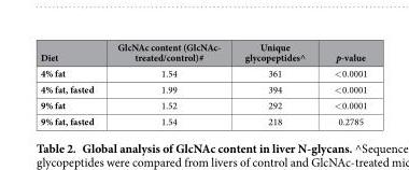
<table><thead><tr><td>Diet</td><td>GlcNAc content (GlcNAc- treated/control)#</td><td>Unique glycopeptides^</td><td>p-value</td></tr></thead><tbody><tr><td>4% fat</td><td>1.54</td><td>361</td><td>&lt; 0.0001</td></tr><tr><td>4% fat, fasted</td><td>1.99</td><td>394</td><td>&lt; 0.0001</td></tr><tr><td>9% fat</td><td>1.52</td><td>292</td><td>&lt; 0.0001</td></tr><tr><td>9% fat, fasted</td><td>1.54</td><td>218</td><td>0.2785</td></tr></tbody></table>